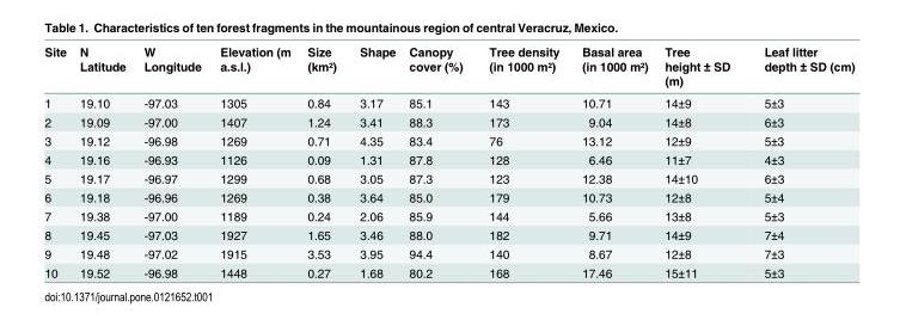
<table><thead><tr><td>Site</td><td>N Latitude</td><td>W Longitude</td><td>Elevation (m a.s.l.)</td><td>Size (km²)</td><td>Shape</td><td>Canopy cover (%)</td><td>Tree density (in 1000 m²)</td><td>Basal area (in 1000 m²)</td><td>Tree height ± SD (m)</td><td>Leaf litter depth ± SD (cm)</td></tr></thead><tbody><tr><td>1</td><td>19.10</td><td>-97.03</td><td>1305</td><td>0.84</td><td>3.17</td><td>85.1</td><td>143</td><td>10.71</td><td>14±9</td><td>5±3</td></tr><tr><td>2</td><td>19.09</td><td>-97.00</td><td>1407</td><td>1.24</td><td>3.41</td><td>88.3</td><td>173</td><td>9.04</td><td>14±8</td><td>6±3</td></tr><tr><td>3</td><td>19.12</td><td>-96.98</td><td>1269</td><td>0.71</td><td>4.35</td><td>83.4</td><td>76</td><td>13.12</td><td>12±9</td><td>5±3</td></tr><tr><td>4</td><td>19.16</td><td>-96.93</td><td>1126</td><td>0.09</td><td>1.31</td><td>87.8</td><td>128</td><td>6.46</td><td>11±7</td><td>4±3</td></tr><tr><td>5</td><td>19.17</td><td>-96.97</td><td>1299</td><td>0.68</td><td>3.05</td><td>87.3</td><td>123</td><td>12.38</td><td>14±10</td><td>6±3</td></tr><tr><td>6</td><td>19.18</td><td>-96.96</td><td>1269</td><td>0.38</td><td>3.64</td><td>85.0</td><td>179</td><td>10.73</td><td>12±8</td><td>5±4</td></tr><tr><td>7</td><td>19.38</td><td>-97.00</td><td>1189</td><td>0.24</td><td>2.06</td><td>85.9</td><td>144</td><td>5.66</td><td>13±8</td><td>5±3</td></tr><tr><td>8</td><td>19.45</td><td>-97.03</td><td>1927</td><td>1.65</td><td>3.46</td><td>88.0</td><td>182</td><td>9.71</td><td>14±9</td><td>7±4</td></tr><tr><td>9</td><td>19.48</td><td>-97.02</td><td>1915</td><td>3.53</td><td>3.95</td><td>94.4</td><td>140</td><td>8.67</td><td>12±8</td><td>7±3</td></tr><tr><td>10</td><td>19.52</td><td>-96.98</td><td>1448</td><td>0.27</td><td>1.68</td><td>80.2</td><td>168</td><td>17.46</td><td>15±11</td><td>5±3</td></tr></tbody></table>